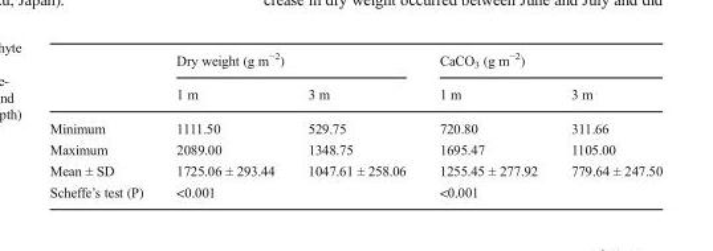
<table><thead><tr><td rowspan="2"></td><td colspan="2">Dry weight (g m<sup>−2</sup>)</td><td colspan="2">CaCO<sub>3</sub> (g m<sup>−2</sup>)</td></tr><tr><td>1 m</td><td>3 m</td><td>1 m</td><td>3 m</td></tr></thead><tbody><tr><td>Minimum</td><td>1111.50</td><td>529.75</td><td>720.80</td><td>311.66</td></tr><tr><td>Maximum</td><td>2089.00</td><td>1348.75</td><td>1695.47</td><td>1105.00</td></tr><tr><td>Mean ± SD</td><td>1725.06 ± 293.44</td><td>1047.61 ± 258.06</td><td>1255.45 ± 277.92</td><td>779.64 ± 247.50</td></tr><tr><td>Scheffe’s test (P)</td><td colspan="2">&lt;0.001</td><td colspan="2">&lt;0.001</td></tr></tbody></table>